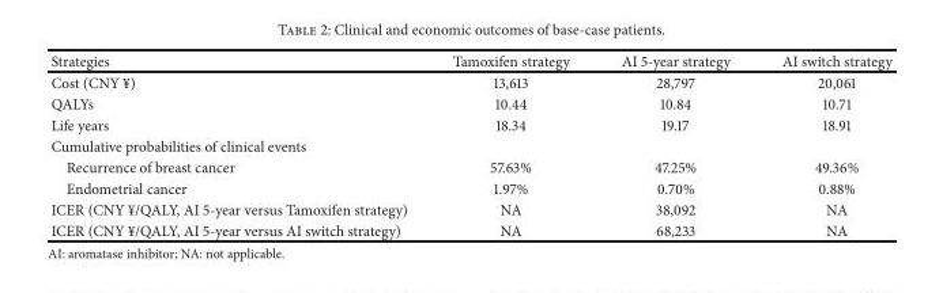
<table><thead><tr><td>Strategies</td><td>Tamoxifen strategy</td><td>AI 5-year strategy</td><td>AI switch strategy</td></tr></thead><tbody><tr><td>Cost (CNY ¥)</td><td>13,613</td><td>28,797</td><td>20,061</td></tr><tr><td>QALYs</td><td>10.44</td><td>10.84</td><td>10.71</td></tr><tr><td>Life years</td><td>18.34</td><td>19.17</td><td>18.91</td></tr><tr><td colspan="4">Cumulative probabilities of clinical events</td></tr><tr><td>Recurrence of breast cancer</td><td>57.63%</td><td>47.25%</td><td>49.36%</td></tr><tr><td>Endometrial cancer</td><td>1.97%</td><td>0.70%</td><td>0.88%</td></tr><tr><td>ICER (CNY ¥/QALY, AI 5-year versus Tamoxifen strategy)</td><td>NA</td><td>38,092</td><td>NA</td></tr><tr><td>ICER (CNY ¥/QALY, AI 5-year versus AI switch strategy)</td><td>NA</td><td>68,233</td><td>NA</td></tr></tbody></table>